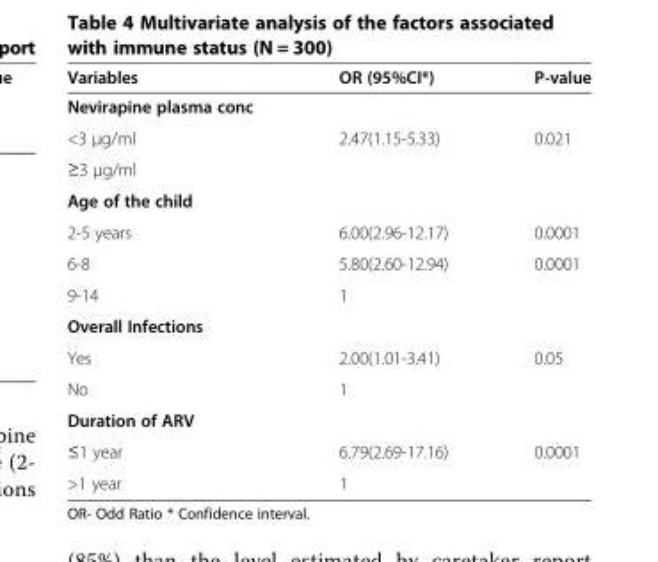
<table><thead><tr><td>Variables</td><td>OR (95%CI*)</td><td>P-value</td></tr></thead><tbody><tr><td colspan="3">Nevirapine plasma conc</td></tr><tr><td>&lt;3 μg/ml</td><td>2.47(1.15-5.33)</td><td>0.021</td></tr><tr><td colspan="3">≥3 μg/ml</td></tr><tr><td colspan="3">Age of the child</td></tr><tr><td>2-5 years</td><td>6.00(2.96-12.17)</td><td>0.0001</td></tr><tr><td>6-8</td><td>5.80(2.60-12.94)</td><td>0.0001</td></tr><tr><td>9-14</td><td>1</td><td></td></tr><tr><td colspan="3">Overall Infections</td></tr><tr><td>Yes</td><td>2.00(1.01-3.41)</td><td>0.05</td></tr><tr><td>No</td><td>1</td><td></td></tr><tr><td colspan="3">Duration of ARV</td></tr><tr><td>≤1 year</td><td>6.79(2.69-17.16)</td><td>0.0001</td></tr><tr><td>&gt;1 year</td><td>1</td><td></td></tr></tbody></table>